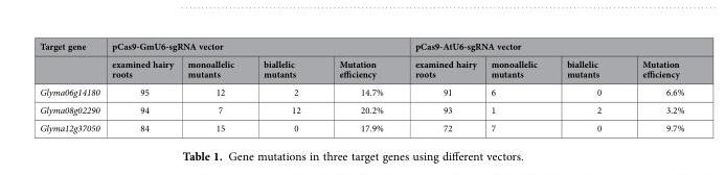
<table><tbody><tr><td rowspan="2">Target gene</td><td colspan="4">pCas9-GmU6-sgRNA vector</td><td colspan="4">pCas9-AtU6-sgRNA vector</td></tr><tr><td>examined hairy roots</td><td>monoallelic mutants</td><td>biallelic mutants</td><td>Mutation efficiency</td><td>examined hairy roots</td><td>monoallelic mutants</td><td>biallelic mutants</td><td>Mutation efficiency</td></tr><tr><td>Glyma06g14180</td><td>95</td><td>12</td><td>2</td><td>14.7%</td><td>91</td><td>6</td><td>0</td><td>6.6%</td></tr><tr><td>Glyma08g02290</td><td>94</td><td>7</td><td>12</td><td>20.2%</td><td>93</td><td>1</td><td>2</td><td>3.2%</td></tr><tr><td>Glyma12g37050</td><td>84</td><td>15</td><td>0</td><td>17.9%</td><td>72</td><td>7</td><td>0</td><td>9.7%</td></tr></tbody></table>